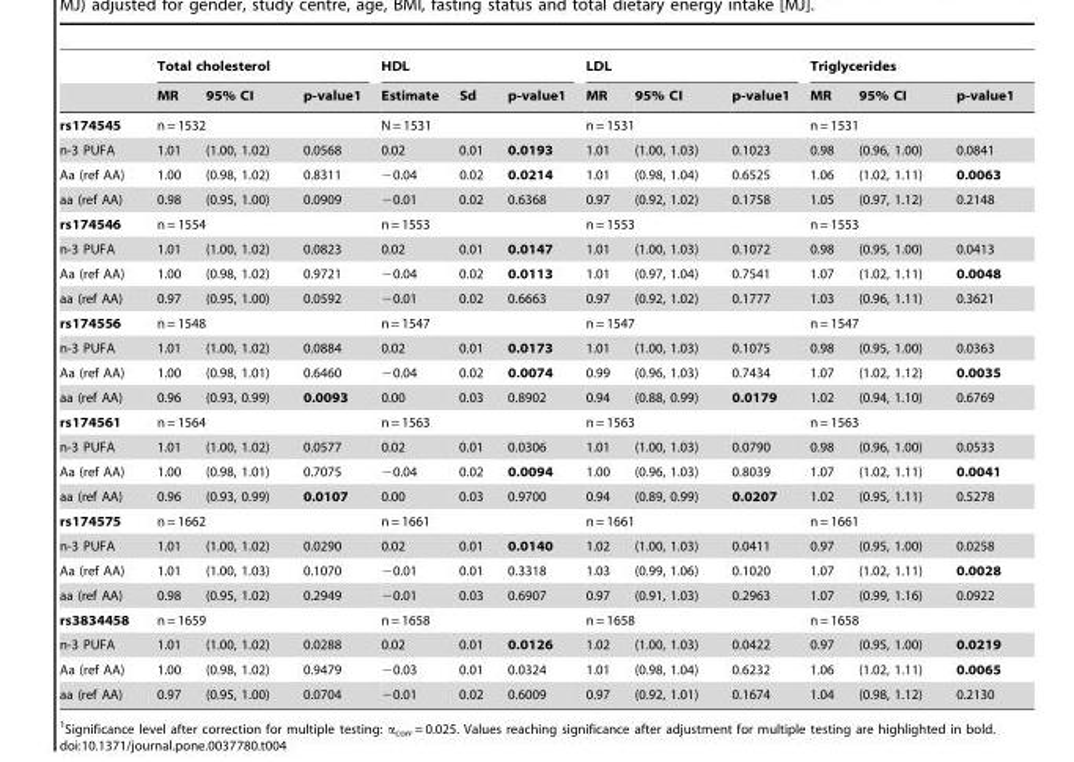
<table><thead><tr><td rowspan="2"></td><td colspan="3">Total cholesterol</td><td colspan="3">HDL</td><td colspan="3">LDL</td><td colspan="3">Triglycerides</td></tr><tr><td>MR</td><td>95% CI</td><td>p-value1</td><td>Estimate</td><td>Sd</td><td>p-value1</td><td>MR</td><td>95% CI</td><td>p-value1</td><td>MR</td><td>95% CI</td><td>p-value1</td></tr></thead><tbody><tr><td>rs174545</td><td colspan="3">n = 1532</td><td colspan="3">N = 1531</td><td colspan="3">n = 1531</td><td colspan="3">n = 1531</td></tr><tr><td>n-3 PUFA</td><td>1.01</td><td>(1.00, 1.02)</td><td>0.0568</td><td>0.02</td><td>0.01</td><td>0.0193</td><td>1.01</td><td>(1.00, 1.03)</td><td>0.1023</td><td>0.98</td><td>(0.96, 1.00)</td><td>0.0841</td></tr><tr><td>Aa (ref AA)</td><td>1.00</td><td>(0.98, 1.02)</td><td>0.8311</td><td>−0.04</td><td>0.02</td><td>0.0214</td><td>1.01</td><td>(0.98, 1.04)</td><td>0.6525</td><td>1.06</td><td>(1.02, 1.11)</td><td>0.0063</td></tr><tr><td>aa (ref AA)</td><td>0.98</td><td>(0.95, 1.00)</td><td>0.0909</td><td>−0.01</td><td>0.02</td><td>0.6368</td><td>0.97</td><td>(0.92, 1.02)</td><td>0.1758</td><td>1.05</td><td>(0.97, 1.12)</td><td>0.2148</td></tr><tr><td>rs174546</td><td colspan="3">n = 1554</td><td colspan="3">n = 1553</td><td colspan="3">n = 1553</td><td colspan="3">n = 1553</td></tr><tr><td>n-3 PUFA</td><td>1.01</td><td>(1.00, 1.02)</td><td>0.0823</td><td>0.02</td><td>0.01</td><td>0.0147</td><td>1.01</td><td>(1.00, 1.03)</td><td>0.1072</td><td>0.98</td><td>(0.95, 1.00)</td><td>0.0413</td></tr><tr><td>Aa (ref AA)</td><td>1.00</td><td>(0.98, 1.02)</td><td>0.9721</td><td>−0.04</td><td>0.02</td><td>0.0113</td><td>1.01</td><td>(0.97, 1.04)</td><td>0.7541</td><td>1.07</td><td>(1.02, 1.11)</td><td>0.0048</td></tr><tr><td>aa (ref AA)</td><td>0.97</td><td>(0.95, 1.00)</td><td>0.0592</td><td>−0.01</td><td>0.02</td><td>0.6663</td><td>0.97</td><td>(0.92, 1.02)</td><td>0.1777</td><td>1.03</td><td>(0.96, 1.11)</td><td>0.3621</td></tr><tr><td>rs174556</td><td colspan="3">n = 1548</td><td colspan="3">n = 1547</td><td colspan="3">n = 1547</td><td colspan="3">n = 1547</td></tr><tr><td>n-3 PUFA</td><td>1.01</td><td>(1.00, 1.02)</td><td>0.0884</td><td>0.02</td><td>0.01</td><td>0.0173</td><td>1.01</td><td>(1.00, 1.03)</td><td>0.1075</td><td>0.98</td><td>(0.95, 1.00)</td><td>0.0363</td></tr><tr><td>Aa (ref AA)</td><td>1.00</td><td>(0.98, 1.01)</td><td>0.6460</td><td>−0.04</td><td>0.02</td><td>0.0074</td><td>0.99</td><td>(0.96, 1.03)</td><td>0.7434</td><td>1.07</td><td>(1.02, 1.12)</td><td>0.0035</td></tr><tr><td>aa (ref AA)</td><td>0.96</td><td>(0.93, 0.99)</td><td>0.0093</td><td>0.00</td><td>0.03</td><td>0.8902</td><td>0.94</td><td>(0.88, 0.99)</td><td>0.0179</td><td>1.02</td><td>(0.94, 1.10)</td><td>0.6769</td></tr><tr><td>rs174561</td><td colspan="3">n = 1564</td><td colspan="3">n = 1563</td><td colspan="3">n = 1563</td><td colspan="3">n = 1563</td></tr><tr><td>n-3 PUFA</td><td>1.01</td><td>(1.00, 1.02)</td><td>0.0577</td><td>0.02</td><td>0.01</td><td>0.0306</td><td>1.01</td><td>(1.00, 1.03)</td><td>0.0790</td><td>0.98</td><td>(0.96, 1.00)</td><td>0.0533</td></tr><tr><td>Aa (ref AA)</td><td>1.00</td><td>(0.98, 1.01)</td><td>0.7075</td><td>−0.04</td><td>0.02</td><td>0.0094</td><td>1.00</td><td>(0.96, 1.03)</td><td>0.8039</td><td>1.07</td><td>(1.02, 1.11)</td><td>0.0041</td></tr><tr><td>aa (ref AA)</td><td>0.96</td><td>(0.93, 0.99)</td><td>0.0107</td><td>0.00</td><td>0.03</td><td>0.9700</td><td>0.94</td><td>(0.89, 0.99)</td><td>0.0207</td><td>1.02</td><td>(0.95, 1.11)</td><td>0.5278</td></tr><tr><td>rs174575</td><td colspan="3">n = 1662</td><td colspan="3">n = 1661</td><td colspan="3">n = 1661</td><td colspan="3">n = 1661</td></tr><tr><td>n-3 PUFA</td><td>1.01</td><td>(1.00, 1.02)</td><td>0.0290</td><td>0.02</td><td>0.01</td><td>0.0140</td><td>1.02</td><td>(1.00, 1.03)</td><td>0.0411</td><td>0.97</td><td>(0.95, 1.00)</td><td>0.0258</td></tr><tr><td>Aa (ref AA)</td><td>1.01</td><td>(1.00, 1.03)</td><td>0.1070</td><td>−0.01</td><td>0.01</td><td>0.3318</td><td>1.03</td><td>(0.99, 1.06)</td><td>0.1020</td><td>1.07</td><td>(1.02, 1.11)</td><td>0.0028</td></tr><tr><td>aa (ref AA)</td><td>0.98</td><td>(0.95, 1.02)</td><td>0.2949</td><td>−0.01</td><td>0.03</td><td>0.6907</td><td>0.97</td><td>(0.91, 1.03)</td><td>0.2963</td><td>1.07</td><td>(0.99, 1.16)</td><td>0.0922</td></tr><tr><td>rs3834458</td><td colspan="3">n = 1659</td><td colspan="3">n = 1658</td><td colspan="3">n = 1658</td><td colspan="3">n = 1658</td></tr><tr><td>n-3 PUFA</td><td>1.01</td><td>(1.00, 1.02)</td><td>0.0288</td><td>0.02</td><td>0.01</td><td>0.0126</td><td>1.02</td><td>(1.00, 1.03)</td><td>0.0422</td><td>0.97</td><td>(0.95, 1.00)</td><td>0.0219</td></tr><tr><td>Aa (ref AA)</td><td>1.00</td><td>(0.98, 1.02)</td><td>0.9479</td><td>−0.03</td><td>0.01</td><td>0.0324</td><td>1.01</td><td>(0.98, 1.04)</td><td>0.6232</td><td>1.06</td><td>(1.02, 1.11)</td><td>0.0065</td></tr><tr><td>aa (ref AA)</td><td>0.97</td><td>(0.95, 1.00)</td><td>0.0704</td><td>−0.01</td><td>0.02</td><td>0.6009</td><td>0.97</td><td>(0.92, 1.01)</td><td>0.1674</td><td>1.04</td><td>(0.98, 1.12)</td><td>0.2130</td></tr></tbody></table>